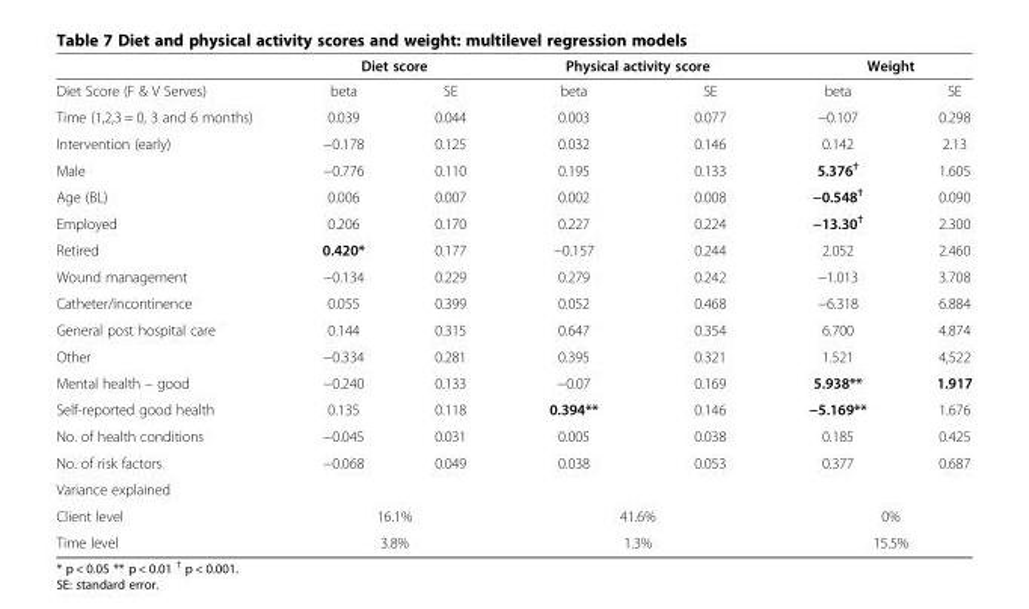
<table><thead><tr><td rowspan="2">Diet Score (F &amp; V Serves)</td><td colspan="2">Diet score</td><td colspan="2">Physical activity score</td><td colspan="2">Weight</td></tr><tr><td>beta</td><td>SE</td><td>beta</td><td>SE</td><td>beta</td><td>SE</td></tr></thead><tbody><tr><td>Time (1,2,3 = 0, 3 and 6 months)</td><td>0.039</td><td>0.044</td><td>0.003</td><td>0.077</td><td>−0.107</td><td>0.298</td></tr><tr><td>Intervention (early)</td><td>−0.178</td><td>0.125</td><td>0.032</td><td>0.146</td><td>0.142</td><td>2.13</td></tr><tr><td>Male</td><td>−0.776</td><td>0.110</td><td>0.195</td><td>0.133</td><td>5.376<sup>†</sup></td><td>1.605</td></tr><tr><td>Age (BL)</td><td>0.006</td><td>0.007</td><td>0.002</td><td>0.008</td><td>−0.548<sup>†</sup></td><td>0.090</td></tr><tr><td>Employed</td><td>0.206</td><td>0.170</td><td>0.227</td><td>0.224</td><td>−13.30<sup>†</sup></td><td>2.300</td></tr><tr><td>Retired</td><td>0.420*</td><td>0.177</td><td>−0.157</td><td>0.244</td><td>2.052</td><td>2.460</td></tr><tr><td>Wound management</td><td>−0.134</td><td>0.229</td><td>0.279</td><td>0.242</td><td>−1.013</td><td>3.708</td></tr><tr><td>Catheter/incontinence</td><td>0.055</td><td>0.399</td><td>0.052</td><td>0.468</td><td>−6.318</td><td>6.884</td></tr><tr><td>General post hospital care</td><td>0.144</td><td>0.315</td><td>0.647</td><td>0.354</td><td>6.700</td><td>4.874</td></tr><tr><td>Other</td><td>−0.334</td><td>0.281</td><td>0.395</td><td>0.321</td><td>1.521</td><td>4,522</td></tr><tr><td>Mental health – good</td><td>−0.240</td><td>0.133</td><td>−0.07</td><td>0.169</td><td>5.938**</td><td>1.917</td></tr><tr><td>Self-reported good health</td><td>0.135</td><td>0.118</td><td>0.394**</td><td>0.146</td><td>−5.169**</td><td>1.676</td></tr><tr><td>No. of health conditions</td><td>−0.045</td><td>0.031</td><td>0.005</td><td>0.038</td><td>0.185</td><td>0.425</td></tr><tr><td>No. of risk factors</td><td>−0.068</td><td>0.049</td><td>0.038</td><td>0.053</td><td>0.377</td><td>0.687</td></tr><tr><td colspan="7">Variance explained</td></tr><tr><td>Client level</td><td colspan="2">16.1%</td><td colspan="2">41.6%</td><td colspan="2">0%</td></tr><tr><td>Time level</td><td colspan="2">3.8%</td><td colspan="2">1.3%</td><td colspan="2">15.5%</td></tr></tbody></table>